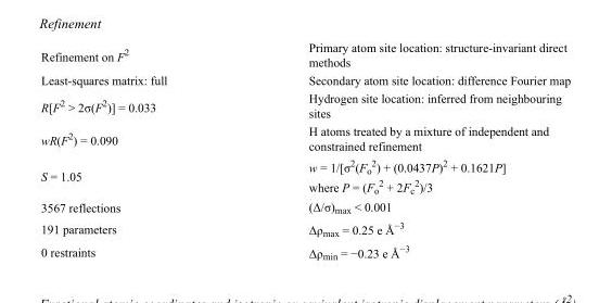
<table><tbody><tr><td>Refinement on F<sup>2</sup></td><td>Primary atom site location: structure-invariant direct methods</td></tr><tr><td>Least-squares matrix: full</td><td>Secondary atom site location: difference Fourier map</td></tr><tr><td>R[F<sup>2</sup> &gt; 2σ(F<sup>2</sup>)] = 0.033</td><td>Hydrogen site location: inferred from neighbouring sites</td></tr><tr><td>wR(F<sup>2</sup>) = 0.090</td><td>H atoms treated by a mixture of independent and constrained refinement</td></tr><tr><td>S = 1.05</td><td>w = 1/[σ<sup>2</sup>(F<sub>o</sub> <sup>2</sup>) + (0.0437P)<sup>2</sup> + 0.1621P] where P = (F<sub>o</sub> <sup>2</sup> + 2F<sub>c</sub> <sup>2</sup>)/3</td></tr><tr><td>3567 reflections</td><td>(Δ/σ)<sub>max</sub> &lt; 0.001</td></tr><tr><td>191 parameters</td><td>Δρ<sub>max</sub> = 0.25 e Å<sup>−3</sup></td></tr><tr><td>0 restraints</td><td>Δρ<sub>min</sub> = −0.23 e Å<sup>−3</sup></td></tr></tbody></table>